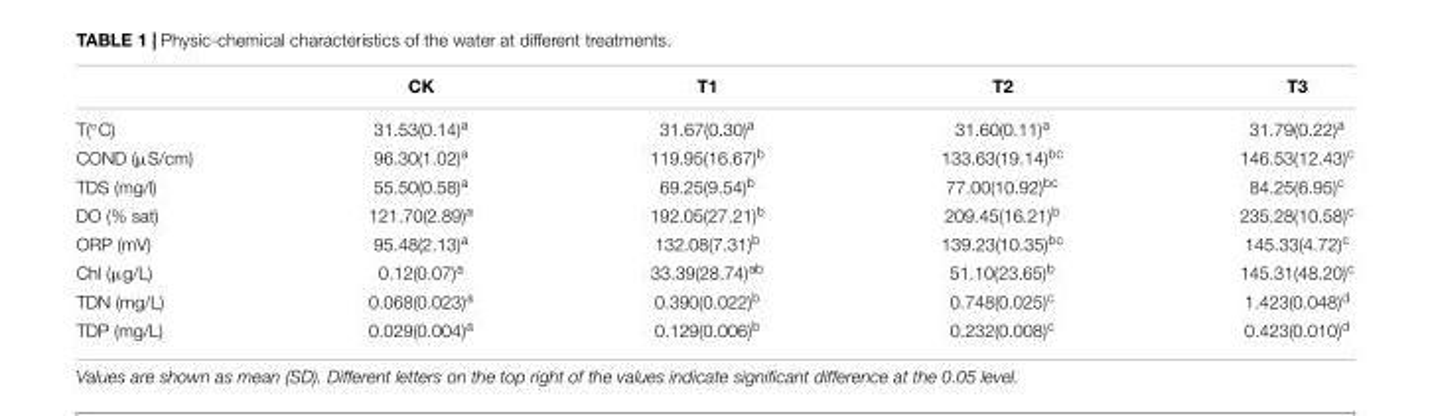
<table><thead><tr><td></td><td>CK</td><td>T1</td><td>T2</td><td>T3</td></tr></thead><tbody><tr><td>T(◦C)</td><td>31.53(0.14)<sup>a</sup></td><td>31.67(0.30)<sup>a</sup></td><td>31.60(0.11)<sup>a</sup></td><td>31.79(0.22)<sup>a</sup></td></tr><tr><td>COND (µS/cm)</td><td>96.30(1.02)<sup>a</sup></td><td>119.95(16.67)<sup>b</sup></td><td>133.63(19.14)<sup>bc</sup></td><td>146.53(12.43)<sup>c</sup></td></tr><tr><td>TDS (mg/l)</td><td>55.50(0.58)<sup>a</sup></td><td>69.25(9.54)<sup>b</sup></td><td>77.00(10.92)<sup>bc</sup></td><td>84.25(6.95)<sup>c</sup></td></tr><tr><td>DO (% sat)</td><td>121.70(2.89)<sup>a</sup></td><td>192.05(27.21)<sup>b</sup></td><td>209.45(16.21)<sup>b</sup></td><td>235.28(10.58)<sup>c</sup></td></tr><tr><td>ORP (mV)</td><td>95.48(2.13)<sup>a</sup></td><td>132.08(7.31)<sup>b</sup></td><td>139.23(10.35)<sup>bc</sup></td><td>145.33(4.72)<sup>c</sup></td></tr><tr><td>Chl (µg/L)</td><td>0.12(0.07)<sup>a</sup></td><td>33.39(28.74)<sup>ab</sup></td><td>51.10(23.65)<sup>b</sup></td><td>145.31(48.20)<sup>c</sup></td></tr><tr><td>TDN (mg/L)</td><td>0.068(0.023)<sup>a</sup></td><td>0.390(0.022)<sup>b</sup></td><td>0.748(0.025)<sup>c</sup></td><td>1.423(0.048)<sup>d</sup></td></tr><tr><td>TDP (mg/L)</td><td>0.029(0.004)<sup>a</sup></td><td>0.129(0.006)<sup>b</sup></td><td>0.232(0.008)<sup>c</sup></td><td>0.423(0.010)<sup>d</sup></td></tr></tbody></table>